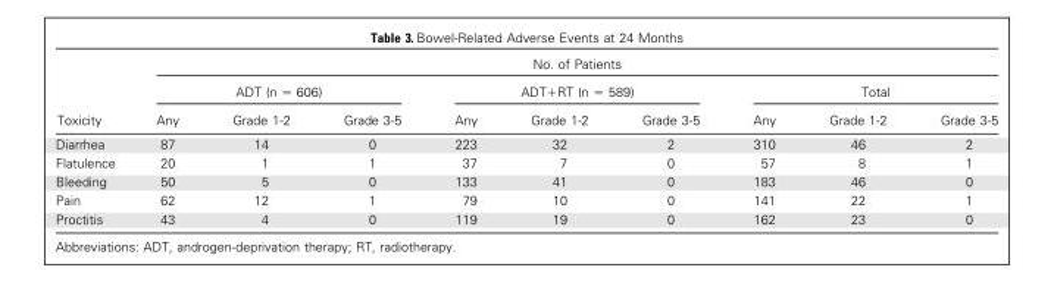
<table><thead><tr><td rowspan="3">Toxicity</td><td colspan="9">No. of Patients</td></tr><tr><td colspan="3">ADT (n = 606)</td><td colspan="3">ADT+RT (n = 589)</td><td colspan="3">Total</td></tr><tr><td>Any</td><td>Grade 1-2</td><td>Grade 3-5</td><td>Any</td><td>Grade 1-2</td><td>Grade 3-5</td><td>Any</td><td>Grade 1-2</td><td>Grade 3-5</td></tr></thead><tbody><tr><td>Diarrhea</td><td>87</td><td>14</td><td>0</td><td>223</td><td>32</td><td>2</td><td>310</td><td>46</td><td>2</td></tr><tr><td>Flatulence</td><td>20</td><td>1</td><td>1</td><td>37</td><td>7</td><td>0</td><td>57</td><td>8</td><td>1</td></tr><tr><td>Bleeding</td><td>50</td><td>5</td><td>0</td><td>133</td><td>41</td><td>0</td><td>183</td><td>46</td><td>0</td></tr><tr><td>Pain</td><td>62</td><td>12</td><td>1</td><td>79</td><td>10</td><td>0</td><td>141</td><td>22</td><td>1</td></tr><tr><td>Proctitis</td><td>43</td><td>4</td><td>0</td><td>119</td><td>19</td><td>0</td><td>162</td><td>23</td><td>0</td></tr></tbody></table>